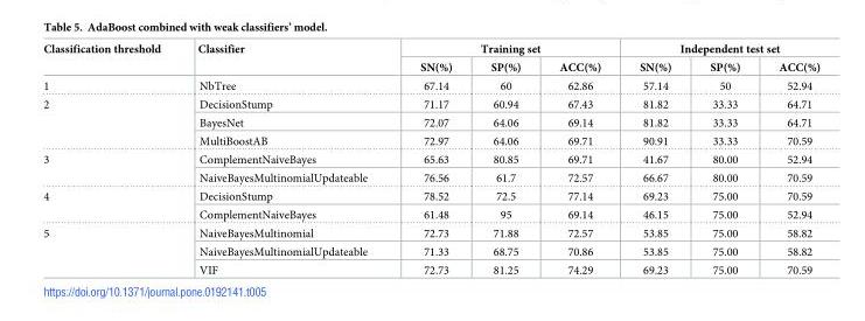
<table><thead><tr><td rowspan="2">Classification threshold</td><td rowspan="2">Classifier</td><td colspan="3">Training set</td><td colspan="3">Independent test set</td></tr><tr><td>SN(%)</td><td>SP(%)</td><td>ACC(%)</td><td>SN(%)</td><td>SP(%)</td><td>ACC(%)</td></tr></thead><tbody><tr><td>1</td><td>NbTree</td><td>67.14</td><td>60</td><td>62.86</td><td>57.14</td><td>50</td><td>52.94</td></tr><tr><td rowspan="3">2</td><td>DecisionStump</td><td>71.17</td><td>60.94</td><td>67.43</td><td>81.82</td><td>33.33</td><td>64.71</td></tr><tr><td>BayesNet</td><td>72.07</td><td>64.06</td><td>69.14</td><td>81.82</td><td>33.33</td><td>64.71</td></tr><tr><td>MultiBoostAB</td><td>72.97</td><td>64.06</td><td>69.71</td><td>90.91</td><td>33.33</td><td>70.59</td></tr><tr><td rowspan="2">3</td><td>ComplementNaiveBayes</td><td>65.63</td><td>80.85</td><td>69.71</td><td>41.67</td><td>80.00</td><td>52.94</td></tr><tr><td>NaiveBayesMultinomialUpdateable</td><td>76.56</td><td>61.7</td><td>72.57</td><td>66.67</td><td>80.00</td><td>70.59</td></tr><tr><td rowspan="2">4</td><td>DecisionStump</td><td>78.52</td><td>72.5</td><td>77.14</td><td>69.23</td><td>75.00</td><td>70.59</td></tr><tr><td>ComplementNaiveBayes</td><td>61.48</td><td>95</td><td>69.14</td><td>46.15</td><td>75.00</td><td>52.94</td></tr><tr><td rowspan="3">5</td><td>NaiveBayesMultinomial</td><td>72.73</td><td>71.88</td><td>72.57</td><td>53.85</td><td>75.00</td><td>58.82</td></tr><tr><td>NaiveBayesMultinomialUpdateable</td><td>71.33</td><td>68.75</td><td>70.86</td><td>53.85</td><td>75.00</td><td>58.82</td></tr><tr><td>VIF</td><td>72.73</td><td>81.25</td><td>74.29</td><td>69.23</td><td>75.00</td><td>70.59</td></tr></tbody></table>